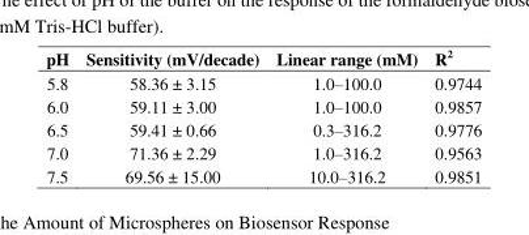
<table><thead><tr><td>pH</td><td>Sensitivity (mV/decade)</td><td>Linear range (mM)</td><td>R<sup>2</sup></td></tr></thead><tbody><tr><td>5.8</td><td>58.36 ± 3.15</td><td>1.0–100.0</td><td>0.9744</td></tr><tr><td>6.0</td><td>59.11 ± 3.00</td><td>1.0–100.0</td><td>0.9857</td></tr><tr><td>6.5</td><td>59.41 ± 0.66</td><td>0.3–316.2</td><td>0.9776</td></tr><tr><td>7.0</td><td>71.36 ± 2.29</td><td>1.0–316.2</td><td>0.9563</td></tr><tr><td>7.5</td><td>69.56 ± 15.00</td><td>10.0–316.2</td><td>0.9851</td></tr></tbody></table>